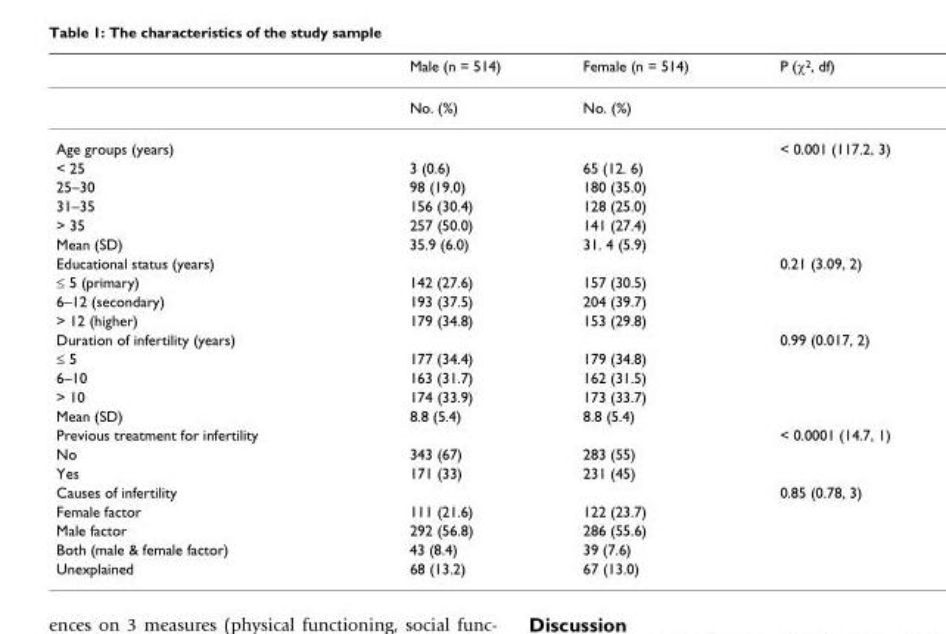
<table><thead><tr><td></td><td>Male (n = 514)</td><td>Female (n = 514)</td><td>P (χ<sup>2</sup>, df)</td></tr></thead><tbody><tr><td></td><td>No. (%)</td><td>No. (%)</td><td></td></tr><tr><td>Age groups (years)</td><td></td><td></td><td>&lt; 0.001 (117.2, 3)</td></tr><tr><td>&lt; 25</td><td>3 (0.6)</td><td>65 (12. 6)</td><td></td></tr><tr><td>25–30</td><td>98 (19.0)</td><td>180 (35.0)</td><td></td></tr><tr><td>31–35</td><td>156 (30.4)</td><td>128 (25.0)</td><td></td></tr><tr><td>&gt; 35</td><td>257 (50.0)</td><td>141 (27.4)</td><td></td></tr><tr><td>Mean (SD)</td><td>35.9 (6.0)</td><td>31. 4 (5.9)</td><td></td></tr><tr><td>Educational status (years)</td><td></td><td></td><td>0.21 (3.09, 2)</td></tr><tr><td>≤ 5 (primary)</td><td>142 (27.6)</td><td>157 (30.5)</td><td></td></tr><tr><td>6–12 (secondary)</td><td>193 (37.5)</td><td>204 (39.7)</td><td></td></tr><tr><td>&gt; 12 (higher)</td><td>179 (34.8)</td><td>153 (29.8)</td><td></td></tr><tr><td>Duration of infertility (years)</td><td></td><td></td><td>0.99 (0.017, 2)</td></tr><tr><td>≤ 5</td><td>177 (34.4)</td><td>179 (34.8)</td><td></td></tr><tr><td>6–10</td><td>163 (31.7)</td><td>162 (31.5)</td><td></td></tr><tr><td>&gt; 10</td><td>174 (33.9)</td><td>173 (33.7)</td><td></td></tr><tr><td>Mean (SD)</td><td>8.8 (5.4)</td><td>8.8 (5.4)</td><td></td></tr><tr><td>Previous treatment for infertility</td><td></td><td></td><td>&lt; 0.0001 (14.7, 1)</td></tr><tr><td>No</td><td>343 (67)</td><td>283 (55)</td><td></td></tr><tr><td>Yes</td><td>171 (33)</td><td>231 (45)</td><td></td></tr><tr><td>Causes of infertility</td><td></td><td></td><td>0.85 (0.78, 3)</td></tr><tr><td>Female factor</td><td>111 (21.6)</td><td>122 (23.7)</td><td></td></tr><tr><td>Male factor</td><td>292 (56.8)</td><td>286 (55.6)</td><td></td></tr><tr><td>Both (male &amp; female factor)</td><td>43 (8.4)</td><td>39 (7.6)</td><td></td></tr><tr><td>Unexplained</td><td>68 (13.2)</td><td>67 (13.0)</td><td></td></tr></tbody></table>